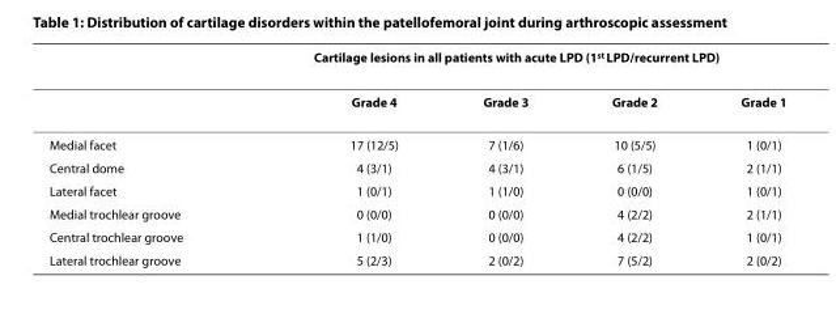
<table><thead><tr><td rowspan="2"></td><td colspan="4">Cartilage lesions in all patients with acute LPD (1<sup>st</sup> LPD/recurrent LPD)</td></tr><tr><td>Grade 4</td><td>Grade 3</td><td>Grade 2</td><td>Grade 1</td></tr></thead><tbody><tr><td>Medial facet</td><td>17 (12/5)</td><td>7 (1/6)</td><td>10 (5/5)</td><td>1 (0/1)</td></tr><tr><td>Central dome</td><td>4 (3/1)</td><td>4 (3/1)</td><td>6 (1/5)</td><td>2 (1/1)</td></tr><tr><td>Lateral facet</td><td>1 (0/1)</td><td>1 (1/0)</td><td>0 (0/0)</td><td>1 (0/1)</td></tr><tr><td>Medial trochlear groove</td><td>0 (0/0)</td><td>0 (0/0)</td><td>4 (2/2)</td><td>2 (1/1)</td></tr><tr><td>Central trochlear groove</td><td>1 (1/0)</td><td>0 (0/0)</td><td>4 (2/2)</td><td>1 (0/1)</td></tr><tr><td>Lateral trochlear groove</td><td>5 (2/3)</td><td>2 (0/2)</td><td>7 (5/2)</td><td>2 (0/2)</td></tr></tbody></table>